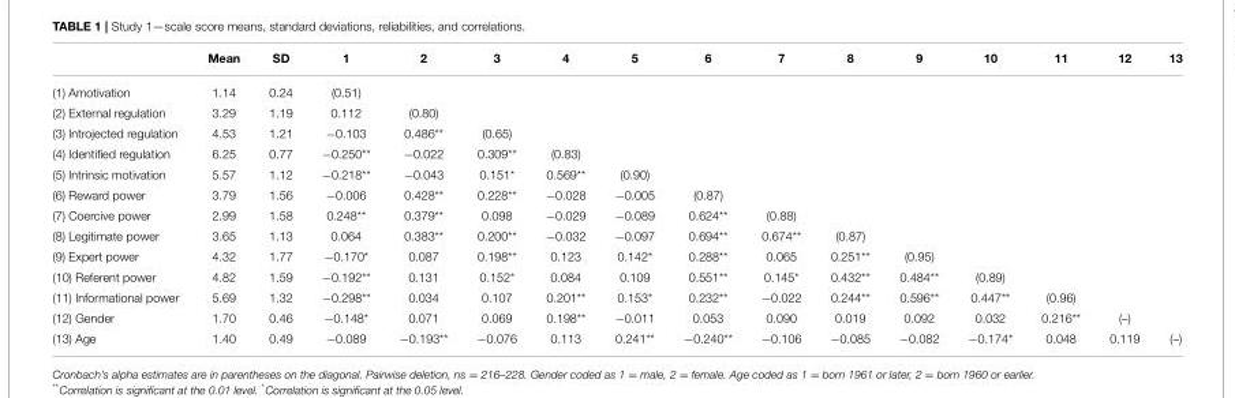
<table><thead><tr><td></td><td>Mean</td><td>SD</td><td>1</td><td>2</td><td>3</td><td>4</td><td>5</td><td>6</td><td>7</td><td>8</td><td>9</td><td>10</td><td>11</td><td>12</td><td>13</td></tr></thead><tbody><tr><td>(1) Amotivation</td><td>1.14</td><td>0.24</td><td>(0.51)</td><td></td><td></td><td></td><td></td><td></td><td></td><td></td><td></td><td></td><td></td><td></td><td></td></tr><tr><td>(2) External regulation</td><td>3.29</td><td>1.19</td><td>0.112</td><td>(0.80)</td><td></td><td></td><td></td><td></td><td></td><td></td><td></td><td></td><td></td><td></td><td></td></tr><tr><td>(3) Introjected regulation</td><td>4.53</td><td>1.21</td><td>−0.103</td><td>0.486**</td><td>(0.65)</td><td></td><td></td><td></td><td></td><td></td><td></td><td></td><td></td><td></td><td></td></tr><tr><td>(4) Identified regulation</td><td>6.25</td><td>0.77</td><td>−0.250**</td><td>−0.022</td><td>0.309**</td><td>(0.83)</td><td></td><td></td><td></td><td></td><td></td><td></td><td></td><td></td><td></td></tr><tr><td>(5) Intrinsic motivation</td><td>5.57</td><td>1.12</td><td>−0.218**</td><td>−0.043</td><td>0.151*</td><td>0.569**</td><td>(0.90)</td><td></td><td></td><td></td><td></td><td></td><td></td><td></td><td></td></tr><tr><td>(6) Reward power</td><td>3.79</td><td>1.56</td><td>−0.006</td><td>0.428**</td><td>0.228**</td><td>−0.028</td><td>−0.005</td><td>(0.87)</td><td></td><td></td><td></td><td></td><td></td><td></td><td></td></tr><tr><td>(7) Coercive power</td><td>2.99</td><td>1.58</td><td>0.248**</td><td>0.379**</td><td>0.098</td><td>−0.029</td><td>−0.089</td><td>0.624**</td><td>(0.88)</td><td></td><td></td><td></td><td></td><td></td><td></td></tr><tr><td>(8) Legitimate power</td><td>3.65</td><td>1.13</td><td>0.064</td><td>0.383**</td><td>0.200**</td><td>−0.032</td><td>−0.097</td><td>0.694**</td><td>0.674**</td><td>(0.87)</td><td></td><td></td><td></td><td></td><td></td></tr><tr><td>(9) Expert power</td><td>4.32</td><td>1.77</td><td>−0.170*</td><td>0.087</td><td>0.198**</td><td>0.123</td><td>0.142*</td><td>0.288**</td><td>0.065</td><td>0.251**</td><td>(0.95)</td><td></td><td></td><td></td><td></td></tr><tr><td>(10) Referent power</td><td>4.82</td><td>1.59</td><td>−0.192**</td><td>0.131</td><td>0.152*</td><td>0.084</td><td>0.109</td><td>0.551**</td><td>0.145*</td><td>0.432**</td><td>0.484**</td><td>(0.89)</td><td></td><td></td><td></td></tr><tr><td>(11) Informational power</td><td>5.69</td><td>1.32</td><td>−0.298**</td><td>0.034</td><td>0.107</td><td>0.201**</td><td>0.153*</td><td>0.232**</td><td>−0.022</td><td>0.244**</td><td>0.596**</td><td>0.447**</td><td>(0.96)</td><td></td><td></td></tr><tr><td>(12) Gender</td><td>1.70</td><td>0.46</td><td>−0.148*</td><td>0.071</td><td>0.069</td><td>0.198**</td><td>−0.011</td><td>0.053</td><td>0.090</td><td>0.019</td><td>0.092</td><td>0.032</td><td>0.216**</td><td>(–)</td><td></td></tr><tr><td>(13) Age</td><td>1.40</td><td>0.49</td><td>−0.089</td><td>−0.193**</td><td>−0.076</td><td>0.113</td><td>0.241**</td><td>−0.240**</td><td>−0.106</td><td>−0.085</td><td>−0.082</td><td>−0.174*</td><td>0.048</td><td>0.119</td><td>(–)</td></tr></tbody></table>